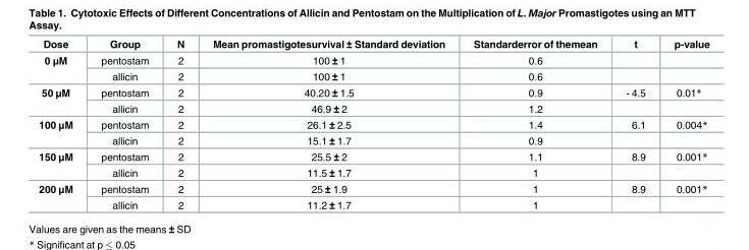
<table><thead><tr><td>Dose</td><td>Group</td><td>N</td><td>Mean promastigotesurvival ± Standard deviation</td><td>Standarderror of themean</td><td>t</td><td>p-value</td></tr></thead><tbody><tr><td rowspan="2">0 μM</td><td>pentostam</td><td>2</td><td>100 ± 1</td><td>0.6</td><td></td><td></td></tr><tr><td>allicin</td><td>2</td><td>100 ± 1</td><td>0.6</td><td></td><td></td></tr><tr><td rowspan="2">50 μM</td><td>pentostam</td><td>2</td><td>40.20 ± 1.5</td><td>0.9</td><td>- 4.5</td><td>0.01*</td></tr><tr><td>allicin</td><td>2</td><td>46.9 ± 2</td><td>1.2</td><td></td><td></td></tr><tr><td rowspan="2">100 μM</td><td>pentostam</td><td>2</td><td>26.1 ± 2.5</td><td>1.4</td><td>6.1</td><td>0.004*</td></tr><tr><td>allicin</td><td>2</td><td>15.1 ± 1.7</td><td>0.9</td><td></td><td></td></tr><tr><td rowspan="2">150 μM</td><td>pentostam</td><td>2</td><td>25.5 ± 2</td><td>1.1</td><td>8.9</td><td>0.001*</td></tr><tr><td>allicin</td><td>2</td><td>11.5 ± 1.7</td><td>1</td><td></td><td></td></tr><tr><td rowspan="2">200 μM</td><td>pentostam</td><td>2</td><td>25 ± 1.9</td><td>1</td><td>8.9</td><td>0.001*</td></tr><tr><td>allicin</td><td>2</td><td>11.2 ± 1.7</td><td>1</td><td></td><td></td></tr></tbody></table>